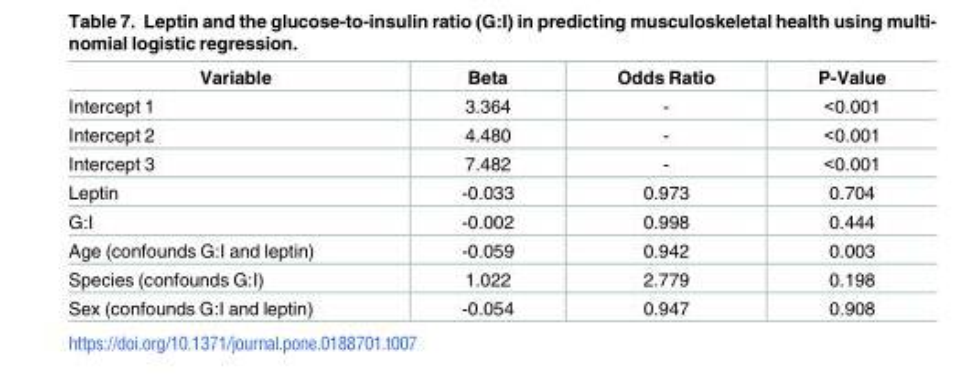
<table><thead><tr><td>Variable</td><td>Beta</td><td>Odds Ratio</td><td>P-Value</td></tr></thead><tbody><tr><td>Intercept 1</td><td>3.364</td><td>-</td><td>&lt;0.001</td></tr><tr><td>Intercept 2</td><td>4.480</td><td>-</td><td>&lt;0.001</td></tr><tr><td>Intercept 3</td><td>7.482</td><td>-</td><td>&lt;0.001</td></tr><tr><td>Leptin</td><td>-0.033</td><td>0.973</td><td>0.704</td></tr><tr><td>G:I</td><td>-0.002</td><td>0.998</td><td>0.444</td></tr><tr><td>Age (confounds G:I and leptin)</td><td>-0.059</td><td>0.942</td><td>0.003</td></tr><tr><td>Species (confounds G:I)</td><td>1.022</td><td>2.779</td><td>0.198</td></tr><tr><td>Sex (confounds G:I and leptin)</td><td>-0.054</td><td>0.947</td><td>0.908</td></tr></tbody></table>